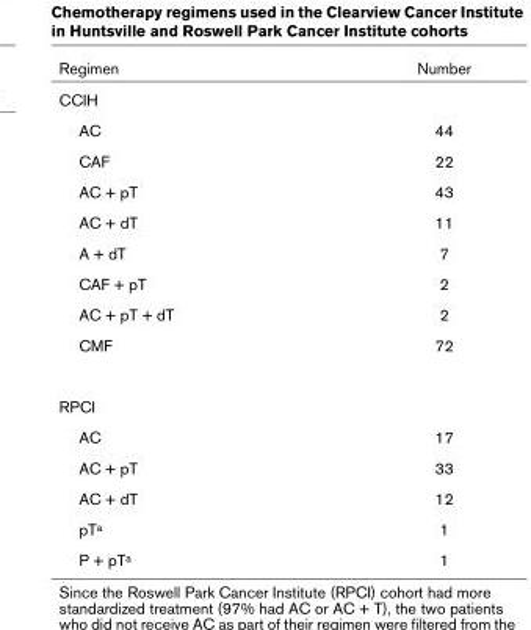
<table><thead><tr><td>Regimen</td><td>Number</td></tr></thead><tbody><tr><td colspan="2">CCIH</td></tr><tr><td>AC</td><td>44</td></tr><tr><td>CAF</td><td>22</td></tr><tr><td>AC + pT</td><td>43</td></tr><tr><td>AC + dT</td><td>11</td></tr><tr><td>A + dT</td><td>7</td></tr><tr><td>CAF + pT</td><td>2</td></tr><tr><td>AC + pT + dT</td><td>2</td></tr><tr><td>CMF</td><td>72</td></tr><tr><td colspan="2">RPCI</td></tr><tr><td>AC</td><td>17</td></tr><tr><td>AC + pT</td><td>33</td></tr><tr><td>AC + dT</td><td>12</td></tr><tr><td>pT<sup>a</sup></td><td>1</td></tr><tr><td>P + pT<sup>a</sup></td><td>1</td></tr></tbody></table>